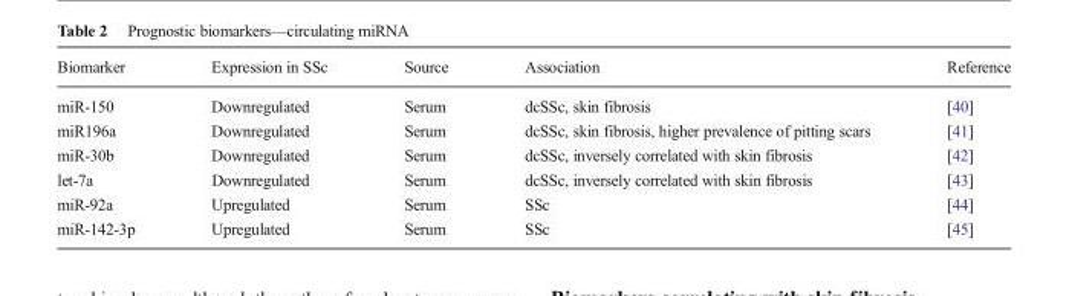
<table><thead><tr><td>Biomarker</td><td>Expression in SSc</td><td>Source</td><td>Association</td><td>Reference</td></tr></thead><tbody><tr><td>miR-150</td><td>Downregulated</td><td>Serum</td><td>dcSSc, skin fibrosis</td><td>[40]</td></tr><tr><td>miR196a</td><td>Downregulated</td><td>Serum</td><td>dcSSc, skin fibrosis, higher prevalence of pitting scars</td><td>[41]</td></tr><tr><td>miR-30b</td><td>Downregulated</td><td>Serum</td><td>dcSSc, inversely correlated with skin fibrosis</td><td>[42]</td></tr><tr><td>let-7a</td><td>Downregulated</td><td>Serum</td><td>dcSSc, inversely correlated with skin fibrosis</td><td>[43]</td></tr><tr><td>miR-92a</td><td>Upregulated</td><td>Serum</td><td>SSc</td><td>[44]</td></tr><tr><td>miR-142-3p</td><td>Upregulated</td><td>Serum</td><td>SSc</td><td>[45]</td></tr></tbody></table>